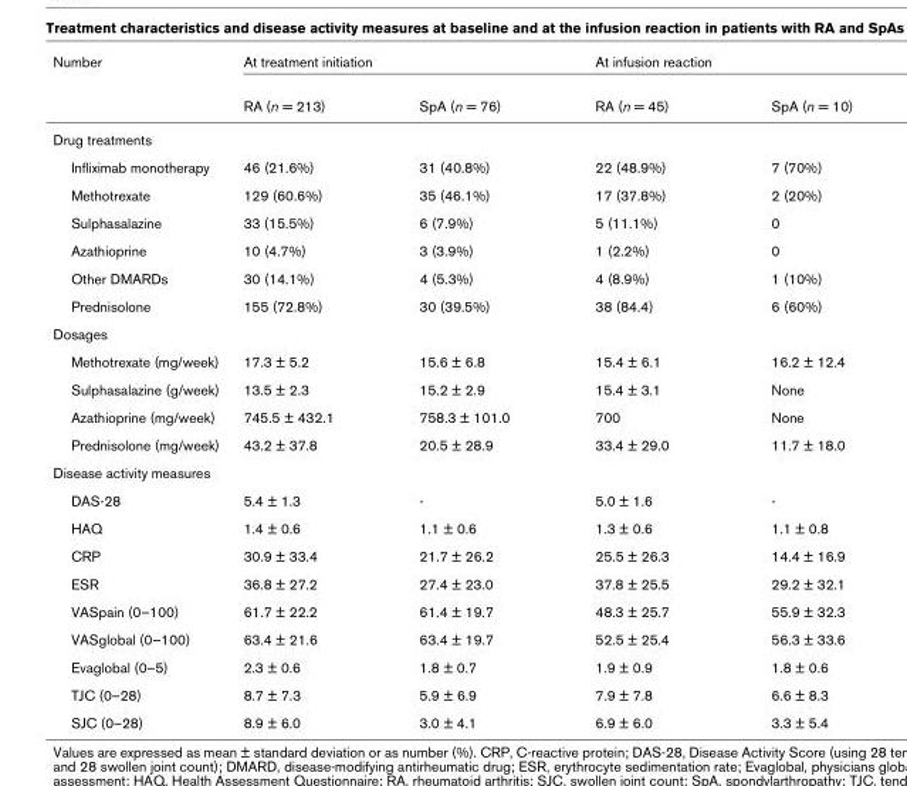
<table><thead><tr><td rowspan="2">Number</td><td colspan="2">At treatment initiation</td><td colspan="2">At infusion reaction</td></tr><tr><td>RA (n = 213)</td><td>SpA (n = 76)</td><td>RA (n = 45)</td><td>SpA (n = 10)</td></tr></thead><tbody><tr><td colspan="5">Drug treatments</td></tr><tr><td>Infliximab monotherapy</td><td>46 (21.6%)</td><td>31 (40.8%)</td><td>22 (48.9%)</td><td>7 (70%)</td></tr><tr><td>Methotrexate</td><td>129 (60.6%)</td><td>35 (46.1%)</td><td>17 (37.8%)</td><td>2 (20%)</td></tr><tr><td>Sulphasalazine</td><td>33 (15.5%)</td><td>6 (7.9%)</td><td>5 (11.1%)</td><td>0</td></tr><tr><td>Azathioprine</td><td>10 (4.7%)</td><td>3 (3.9%)</td><td>1 (2.2%)</td><td>0</td></tr><tr><td>Other DMARDs</td><td>30 (14.1%)</td><td>4 (5.3%)</td><td>4 (8.9%)</td><td>1 (10%)</td></tr><tr><td>Prednisolone</td><td>155 (72.8%)</td><td>30 (39.5%)</td><td>38 (84.4)</td><td>6 (60%)</td></tr><tr><td colspan="5">Dosages</td></tr><tr><td>Methotrexate (mg/week)</td><td>17.3 ± 5.2</td><td>15.6 ± 6.8</td><td>15.4 ± 6.1</td><td>16.2 ± 12.4</td></tr><tr><td>Sulphasalazine (g/week)</td><td>13.5 ± 2.3</td><td>15.2 ± 2.9</td><td>15.4 ± 3.1</td><td>None</td></tr><tr><td>Azathioprine (mg/week)</td><td>745.5 ± 432.1</td><td>758.3 ± 101.0</td><td>700</td><td>None</td></tr><tr><td>Prednisolone (mg/week)</td><td>43.2 ± 37.8</td><td>20.5 ± 28.9</td><td>33.4 ± 29.0</td><td>11.7 ± 18.0</td></tr><tr><td colspan="5">Disease activity measures</td></tr><tr><td>DAS-28</td><td>5.4 ± 1.3</td><td>-</td><td>5.0 ± 1.6</td><td>-</td></tr><tr><td>HAQ</td><td>1.4 ± 0.6</td><td>1.1 ± 0.6</td><td>1.3 ± 0.6</td><td>1.1 ± 0.8</td></tr><tr><td>CRP</td><td>30.9 ± 33.4</td><td>21.7 ± 26.2</td><td>25.5 ± 26.3</td><td>14.4 ± 16.9</td></tr><tr><td>ESR</td><td>36.8 ± 27.2</td><td>27.4 ± 23.0</td><td>37.8 ± 25.5</td><td>29.2 ± 32.1</td></tr><tr><td>VASpain (0–100)</td><td>61.7 ± 22.2</td><td>61.4 ± 19.7</td><td>48.3 ± 25.7</td><td>55.9 ± 32.3</td></tr><tr><td>VASglobal (0–100)</td><td>63.4 ± 21.6</td><td>63.4 ± 19.7</td><td>52.5 ± 25.4</td><td>56.3 ± 33.6</td></tr><tr><td>Evaglobal (0–5)</td><td>2.3 ± 0.6</td><td>1.8 ± 0.7</td><td>1.9 ± 0.9</td><td>1.8 ± 0.6</td></tr><tr><td>TJC (0–28)</td><td>8.7 ± 7.3</td><td>5.9 ± 6.9</td><td>7.9 ± 7.8</td><td>6.6 ± 8.3</td></tr><tr><td>SJC (0–28)</td><td>8.9 ± 6.0</td><td>3.0 ± 4.1</td><td>6.9 ± 6.0</td><td>3.3 ± 5.4</td></tr></tbody></table>